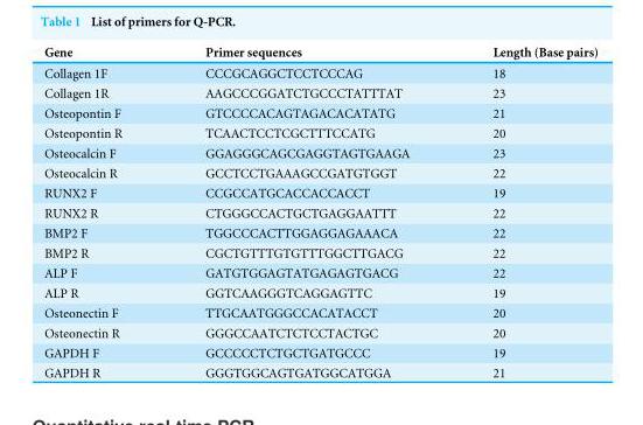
<table><thead><tr><td>Gene</td><td>Primer sequences</td><td>Length (Base pairs)</td></tr></thead><tbody><tr><td>Collagen 1F</td><td>CCCGCAGGCTCCTCCCAG</td><td>18</td></tr><tr><td>Collagen 1R</td><td>AAGCCCGGATCTGCCCTATTTAT</td><td>23</td></tr><tr><td>Osteopontin F</td><td>GTCCCCACAGTAGACACATATG</td><td>21</td></tr><tr><td>Osteopontin R</td><td>TCAACTCCTCGCTTTCCATG</td><td>20</td></tr><tr><td>Osteocalcin F</td><td>GGAGGGCAGCGAGGTAGTGAAGA</td><td>23</td></tr><tr><td>Osteocalcin R</td><td>GCCTCCTGAAAGCCGATGTGGT</td><td>22</td></tr><tr><td>RUNX2 F</td><td>CCGCCATGCACCACCACCT</td><td>19</td></tr><tr><td>RUNX2 R</td><td>CTGGGCCACTGCTGAGGAATTT</td><td>22</td></tr><tr><td>BMP2 F</td><td>TGGCCCACTTGGAGGAGAAACA</td><td>22</td></tr><tr><td>BMP2 R</td><td>CGCTGTTTGTGTTTGGCTTGACG</td><td>22</td></tr><tr><td>ALP F</td><td>GATGTGGAGTATGAGAGTGACG</td><td>22</td></tr><tr><td>ALP R</td><td>GGTCAAGGGTCAGGAGTTC</td><td>19</td></tr><tr><td>Osteonectin F</td><td>TTGCAATGGGCCACATACCT</td><td>20</td></tr><tr><td>Osteonectin R</td><td>GGGCCAATCTCTCCTACTGC</td><td>20</td></tr><tr><td>GAPDH F</td><td>GCCCCCTCTGCTGATGCCC</td><td>19</td></tr><tr><td>GAPDH R</td><td>GGGTGGCAGTGATGGCATGGA</td><td>21</td></tr></tbody></table>